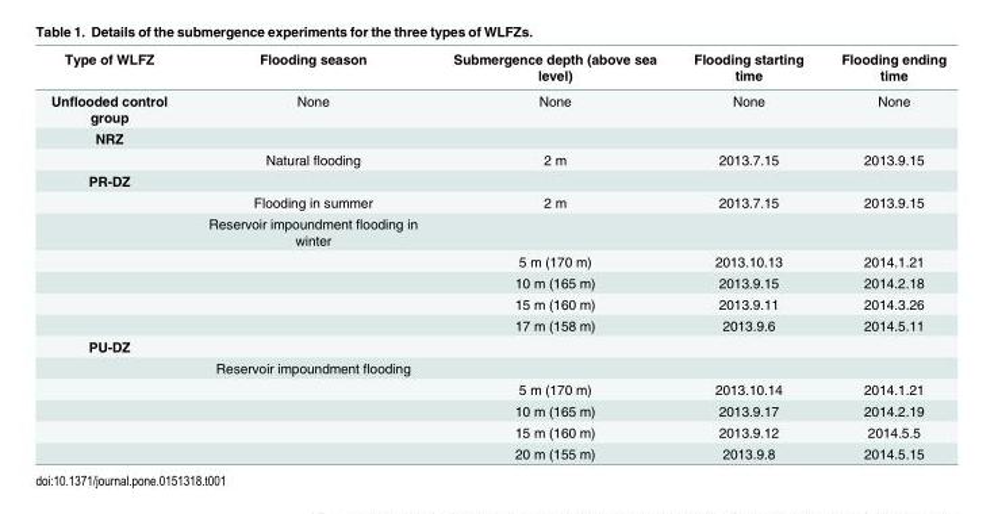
<table><thead><tr><td>Type of WLFZ</td><td>Flooding season</td><td>Submergence depth (above sea level)</td><td>Flooding starting time</td><td>Flooding ending time</td></tr></thead><tbody><tr><td>Unflooded control group</td><td>None</td><td>None</td><td>None</td><td>None</td></tr><tr><td colspan="5">NRZ</td></tr><tr><td></td><td>Natural flooding</td><td>2 m</td><td>2013.7.15</td><td>2013.9.15</td></tr><tr><td colspan="5">PR-DZ</td></tr><tr><td></td><td>Flooding in summer</td><td>2 m</td><td>2013.7.15</td><td>2013.9.15</td></tr><tr><td></td><td>Reservoir impoundment flooding in winter</td><td></td><td></td><td></td></tr><tr><td></td><td></td><td>5 m (170 m)</td><td>2013.10.13</td><td>2014.1.21</td></tr><tr><td></td><td></td><td>10 m (165 m)</td><td>2013.9.15</td><td>2014.2.18</td></tr><tr><td></td><td></td><td>15 m (160 m)</td><td>2013.9.11</td><td>2014.3.26</td></tr><tr><td></td><td></td><td>17 m (158 m)</td><td>2013.9.6</td><td>2014.5.11</td></tr><tr><td colspan="5">PU-DZ</td></tr><tr><td></td><td>Reservoir impoundment flooding</td><td></td><td></td><td></td></tr><tr><td></td><td></td><td>5 m (170 m)</td><td>2013.10.14</td><td>2014.1.21</td></tr><tr><td></td><td></td><td>10 m (165 m)</td><td>2013.9.17</td><td>2014.2.19</td></tr><tr><td></td><td></td><td>15 m (160 m)</td><td>2013.9.12</td><td>2014.5.5</td></tr><tr><td></td><td></td><td>20 m (155 m)</td><td>2013.9.8</td><td>2014.5.15</td></tr></tbody></table>